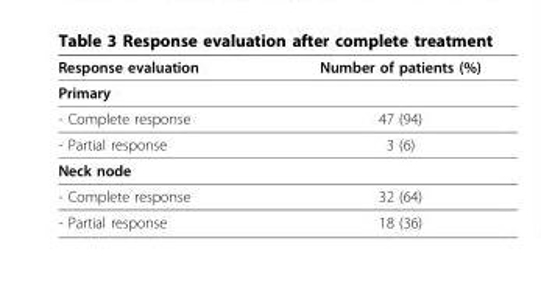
<table><thead><tr><td>Response evaluation</td><td>Number of patients (%)</td></tr></thead><tbody><tr><td colspan="2">Primary</td></tr><tr><td>- Complete response</td><td>47 (94)</td></tr><tr><td>- Partial response</td><td>3 (6)</td></tr><tr><td colspan="2">Neck node</td></tr><tr><td>- Complete response</td><td>32 (64)</td></tr><tr><td>- Partial response</td><td>18 (36)</td></tr></tbody></table>